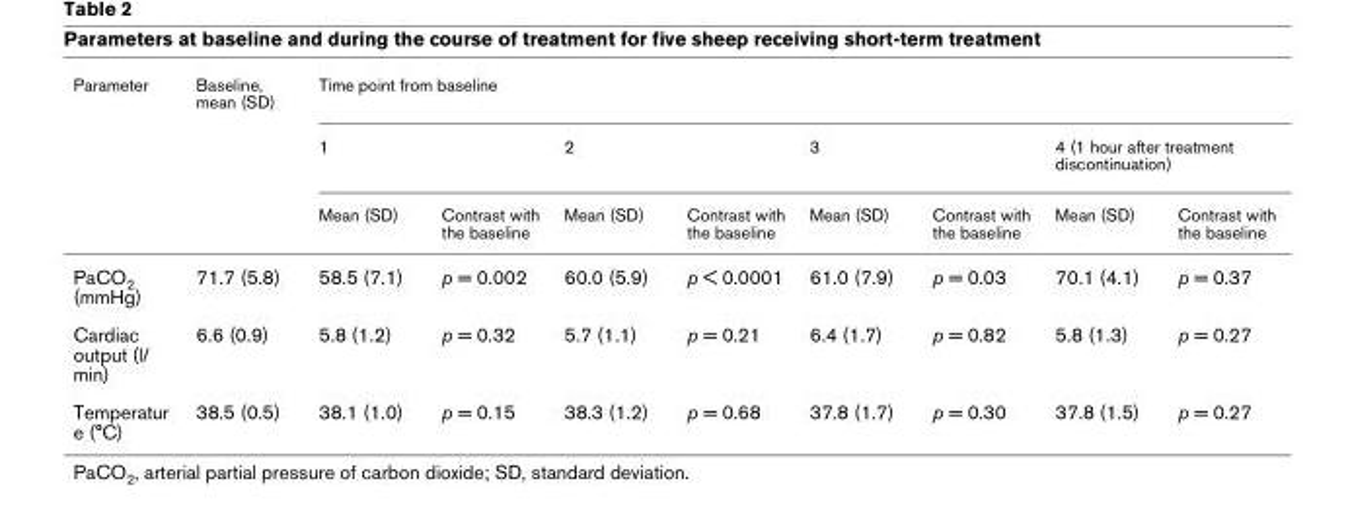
<table><thead><tr><td rowspan="3">Parameter</td><td rowspan="3">Baseline, mean (SD)</td><td colspan="8">Time point from baseline</td></tr><tr><td colspan="2">1</td><td colspan="2">2</td><td colspan="2">3</td><td colspan="2">4 (1 hour after treatment discontinuation)</td></tr><tr><td>Mean (SD)</td><td>Contrast with the baseline</td><td>Mean (SD)</td><td>Contrast with the baseline</td><td>Mean (SD)</td><td>Contrast with the baseline</td><td>Mean (SD)</td><td>Contrast with the baseline</td></tr></thead><tbody><tr><td>PaCO2 (mmHg)</td><td>71.7 (5.8)</td><td>58.5 (7.1)</td><td>p = 0.002</td><td>60.0 (5.9)</td><td>p &lt; 0.0001</td><td>61.0 (7.9)</td><td>p = 0.03</td><td>70.1 (4.1)</td><td>p = 0.37</td></tr><tr><td>Cardiac output (l/ min)</td><td>6.6 (0.9)</td><td>5.8 (1.2)</td><td>p = 0.32</td><td>5.7 (1.1)</td><td>p = 0.21</td><td>6.4 (1.7)</td><td>p = 0.82</td><td>5.8 (1.3)</td><td>p = 0.27</td></tr><tr><td>Temperatur e (°C)</td><td>38.5 (0.5)</td><td>38.1 (1.0)</td><td>p = 0.15</td><td>38.3 (1.2)</td><td>p = 0.68</td><td>37.8 (1.7)</td><td>p = 0.30</td><td>37.8 (1.5)</td><td>p = 0.27</td></tr></tbody></table>